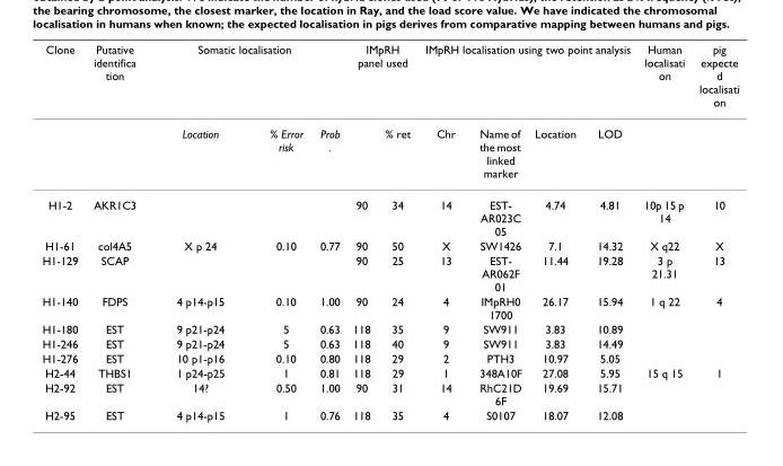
<table><thead><tr><td rowspan="2">Clone</td><td rowspan="2">Putative identifica tion</td><td colspan="3">Somatic localisation</td><td colspan="2">IMpRH panel used</td><td colspan="4">IMpRH localisation using two point analysis</td><td rowspan="2">Human localisati on</td><td rowspan="2">pig expecte d localisati on</td></tr><tr><td>Location</td><td>% Error risk</td><td>Prob .</td><td></td><td>% ret</td><td>Chr</td><td>Name of the most linked marker</td><td>Location</td><td>LOD</td></tr></thead><tbody><tr><td>H1-2</td><td>AKR1C3</td><td></td><td></td><td></td><td>90</td><td>34</td><td>14</td><td>EST- AR023C 05</td><td>4.74</td><td>4.81</td><td>10p 15 p 14</td><td>10</td></tr><tr><td>H1-61</td><td>col4A5</td><td>X p 24</td><td>0.10</td><td>0.77</td><td>90</td><td>50</td><td>X</td><td>SW1426</td><td>7.1</td><td>14.32</td><td>X q22</td><td>X</td></tr><tr><td>H1-129</td><td>SCAP</td><td></td><td></td><td></td><td>90</td><td>25</td><td>13</td><td>EST- AR062F 01</td><td>11.44</td><td>19.28</td><td>3 p 21.31</td><td>13</td></tr><tr><td>H1-140</td><td>FDPS</td><td>4 p14-p15</td><td>0.10</td><td>1.00</td><td>90</td><td>24</td><td>4</td><td>IMpRH0 1700</td><td>26.17</td><td>15.94</td><td>1 q 22</td><td>4</td></tr><tr><td>H1-180</td><td>EST</td><td>9 p21-p24</td><td>5</td><td>0.63</td><td>118</td><td>35</td><td>9</td><td>SW911</td><td>3.83</td><td>10.89</td><td></td><td></td></tr><tr><td>H1-246</td><td>EST</td><td>9 p21-p24</td><td>5</td><td>0.63</td><td>118</td><td>40</td><td>9</td><td>SW911</td><td>3.83</td><td>14.49</td><td></td><td></td></tr><tr><td>H1-276</td><td>EST</td><td>10 p1-p16</td><td>0.10</td><td>0.80</td><td>118</td><td>29</td><td>2</td><td>PTH3</td><td>10.97</td><td>5.05</td><td></td><td></td></tr><tr><td>H2-44</td><td>THBS1</td><td>1 p24-p25</td><td>1</td><td>0.81</td><td>118</td><td>29</td><td>1</td><td>348A10F</td><td>27.08</td><td>5.95</td><td>15 q 15</td><td>1</td></tr><tr><td>H2-92</td><td>EST</td><td>14?</td><td>0.50</td><td>1.00</td><td>90</td><td>31</td><td>14</td><td>RhC21D 6F</td><td>19.69</td><td>15.71</td><td></td><td></td></tr><tr><td>H2-95</td><td>EST</td><td>4 p14-p15</td><td>1</td><td>0.76</td><td>118</td><td>35</td><td>4</td><td>S0107</td><td>18.07</td><td>12.08</td><td></td><td></td></tr></tbody></table>